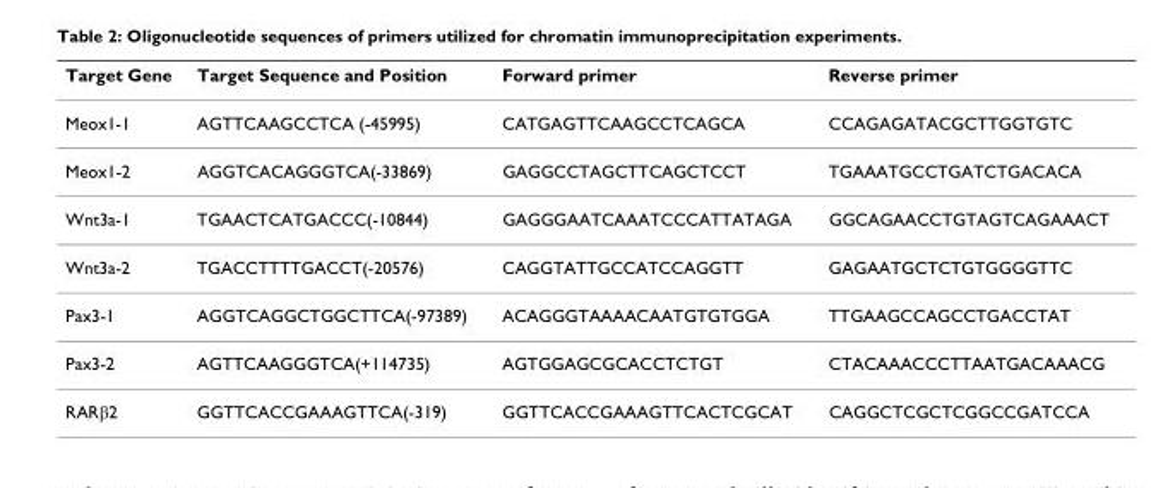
<table><thead><tr><td>Target Gene</td><td>Target Sequence and Position</td><td>Forward primer</td><td>Reverse primer</td></tr></thead><tbody><tr><td>Meox1-1</td><td>AGTTCAAGCCTCA (-45995)</td><td>CATGAGTTCAAGCCTCAGCA</td><td>CCAGAGATACGCTTGGTGTC</td></tr><tr><td>Meox1-2</td><td>AGGTCACAGGGTCA(-33869)</td><td>GAGGCCTAGCTTCAGCTCCT</td><td>TGAAATGCCTGATCTGACACA</td></tr><tr><td>Wnt3a-1</td><td>TGAACTCATGACCC(-10844)</td><td>GAGGGAATCAAATCCCATTATAGA</td><td>GGCAGAACCTGTAGTCAGAAACT</td></tr><tr><td>Wnt3a-2</td><td>TGACCTTTTGACCT(-20576)</td><td>CAGGTATTGCCATCCAGGTT</td><td>GAGAATGCTCTGTGGGGTTC</td></tr><tr><td>Pax3-1</td><td>AGGTCAGGCTGGCTTCA(-97389)</td><td>ACAGGGTAAAACAATGTGTGGA</td><td>TTGAAGCCAGCCTGACCTAT</td></tr><tr><td>Pax3-2</td><td>AGTTCAAGGGTCA(+114735)</td><td>AGTGGAGCGCACCTCTGT</td><td>CTACAAACCCTTAATGACAAACG</td></tr><tr><td>RARβ2</td><td>GGTTCACCGAAAGTTCA(-319)</td><td>GGTTCACCGAAAGTTCACTCGCAT</td><td>CAGGCTCGCTCGGCCGATCCA</td></tr></tbody></table>